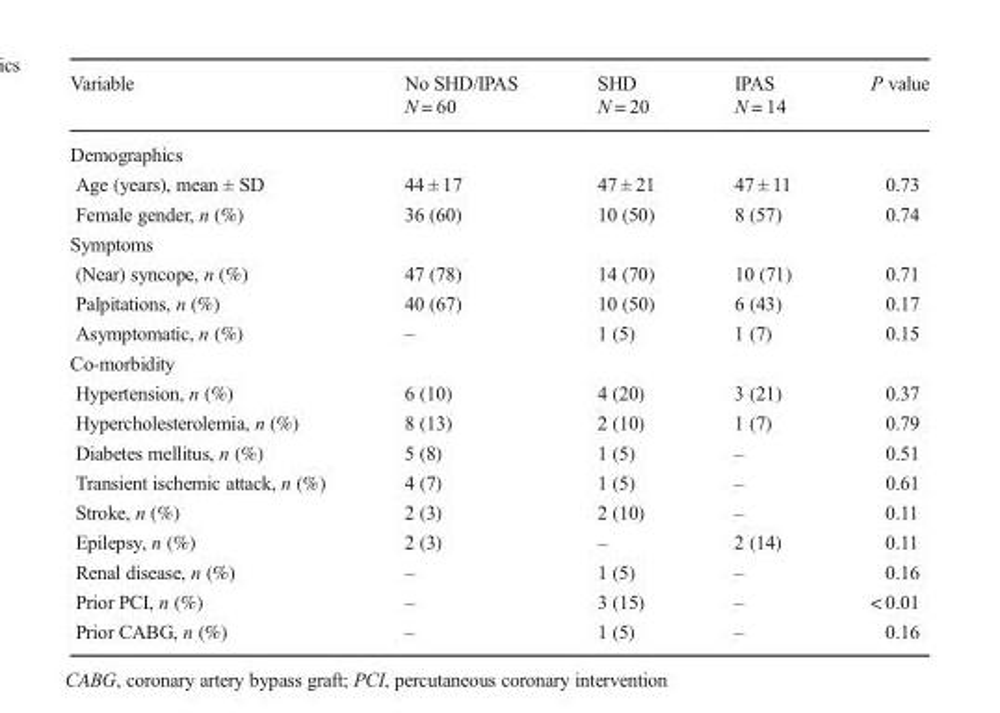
<table><thead><tr><td>Variable</td><td>No SHD/IPAS N = 60</td><td>SHD N = 20</td><td>IPAS N = 14</td><td>P value</td></tr></thead><tbody><tr><td colspan="5">Demographics</td></tr><tr><td>Age (years), mean ± SD</td><td>44 ± 17</td><td>47 ± 21</td><td>47 ± 11</td><td>0.73</td></tr><tr><td>Female gender, n (%)</td><td>36 (60)</td><td>10 (50)</td><td>8 (57)</td><td>0.74</td></tr><tr><td colspan="5">Symptoms</td></tr><tr><td>(Near) syncope, n (%)</td><td>47 (78)</td><td>14 (70)</td><td>10 (71)</td><td>0.71</td></tr><tr><td>Palpitations, n (%)</td><td>40 (67)</td><td>10 (50)</td><td>6 (43)</td><td>0.17</td></tr><tr><td>Asymptomatic, n (%)</td><td>–</td><td>1 (5)</td><td>1 (7)</td><td>0.15</td></tr><tr><td colspan="5">Co-morbidity</td></tr><tr><td>Hypertension, n (%)</td><td>6 (10)</td><td>4 (20)</td><td>3 (21)</td><td>0.37</td></tr><tr><td>Hypercholesterolemia, n (%)</td><td>8 (13)</td><td>2 (10)</td><td>1 (7)</td><td>0.79</td></tr><tr><td>Diabetes mellitus, n (%)</td><td>5 (8)</td><td>1 (5)</td><td>–</td><td>0.51</td></tr><tr><td>Transient ischemic attack, n (%)</td><td>4 (7)</td><td>1 (5)</td><td>–</td><td>0.61</td></tr><tr><td>Stroke, n (%)</td><td>2 (3)</td><td>2 (10)</td><td>–</td><td>0.11</td></tr><tr><td>Epilepsy, n (%)</td><td>2 (3)</td><td>–</td><td>2 (14)</td><td>0.11</td></tr><tr><td>Renal disease, n (%)</td><td>–</td><td>1 (5)</td><td>–</td><td>0.16</td></tr><tr><td>Prior PCI, n (%)</td><td>–</td><td>3 (15)</td><td>–</td><td>&lt; 0.01</td></tr><tr><td>Prior CABG, n (%)</td><td>–</td><td>1 (5)</td><td>–</td><td>0.16</td></tr></tbody></table>